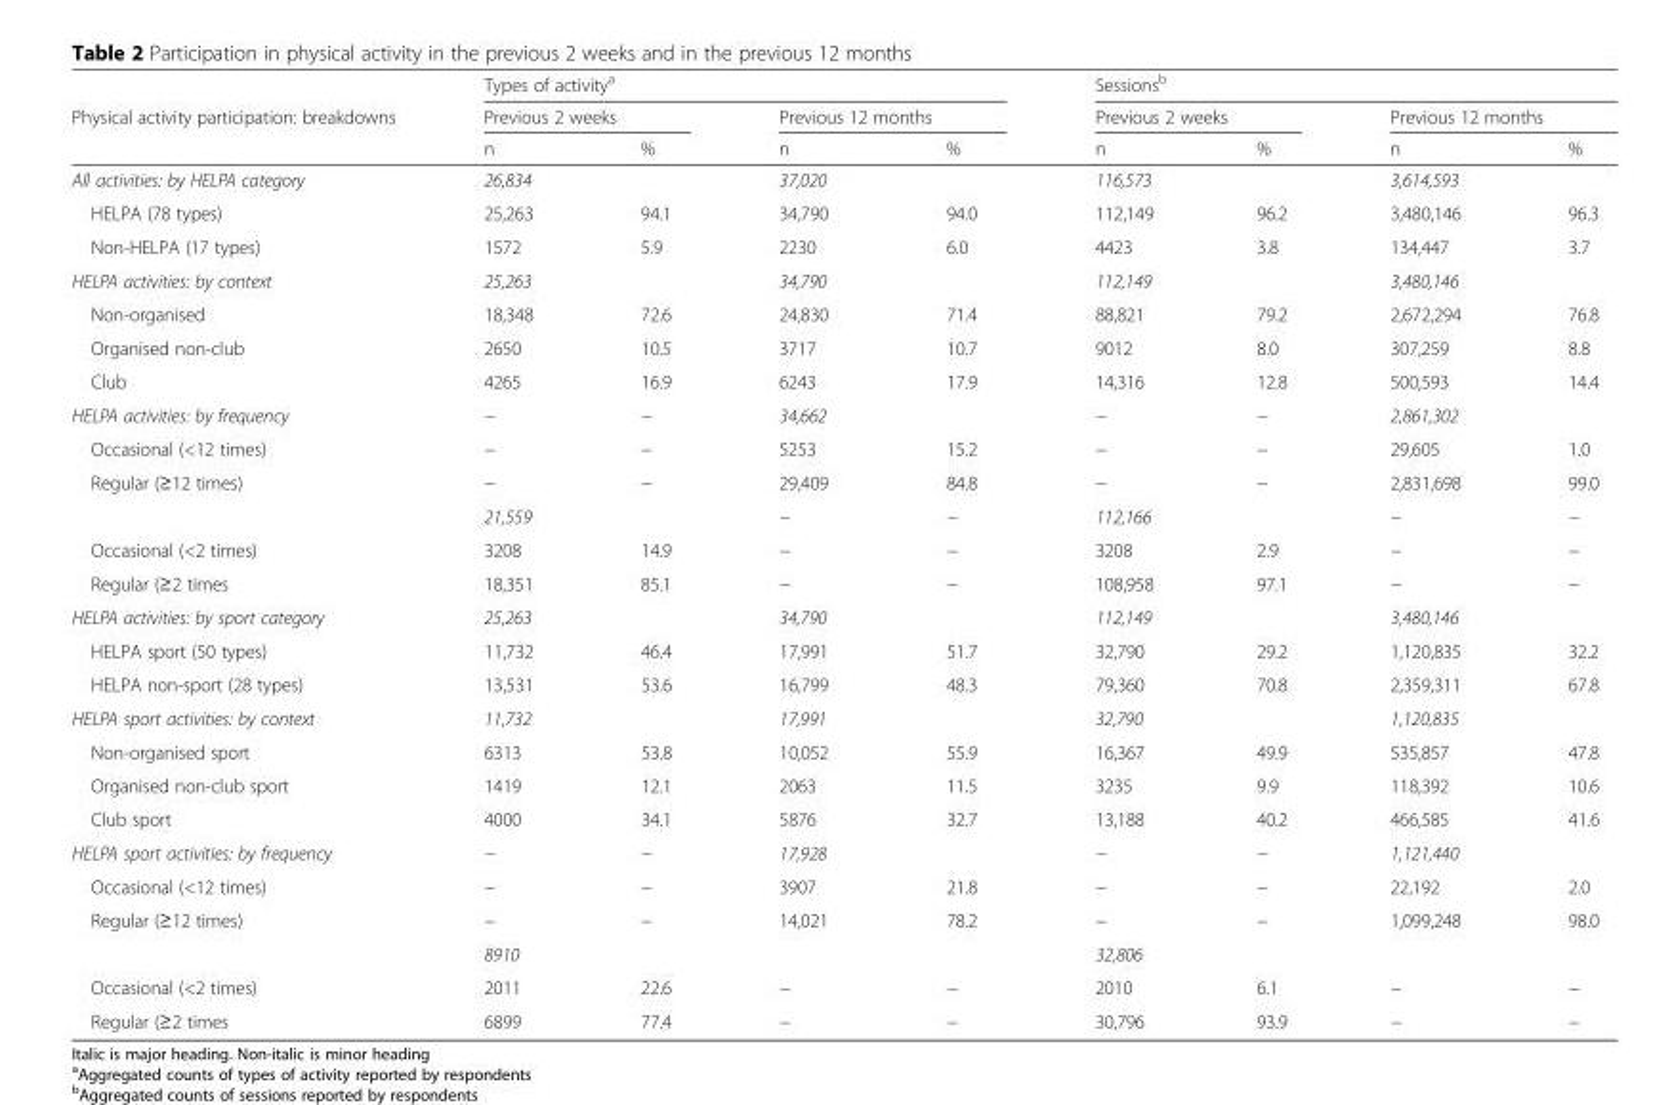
<table><thead><tr><td rowspan="3">Physical activity participation: breakdowns</td><td colspan="4">Types of activity<sup>a</sup></td><td colspan="4">Sessions<sup>b</sup></td></tr><tr><td colspan="2">Previous 2 weeks</td><td colspan="2">Previous 12 months</td><td colspan="2">Previous 2 weeks</td><td colspan="2">Previous 12 months</td></tr><tr><td>n</td><td>%</td><td>n</td><td>%</td><td>n</td><td>%</td><td>n</td><td>%</td></tr></thead><tbody><tr><td>All activities: by HELPA category</td><td>26,834</td><td></td><td>37,020</td><td></td><td>116,573</td><td></td><td>3,614,593</td><td></td></tr><tr><td>HELPA (78 types)</td><td>25,263</td><td>94.1</td><td>34,790</td><td>94.0</td><td>112,149</td><td>96.2</td><td>3,480,146</td><td>96.3</td></tr><tr><td>Non-HELPA (17 types)</td><td>1572</td><td>5.9</td><td>2230</td><td>6.0</td><td>4423</td><td>3.8</td><td>134,447</td><td>3.7</td></tr><tr><td>HELPA activities: by context</td><td>25,263</td><td></td><td>34,790</td><td></td><td>112,149</td><td></td><td>3,480,146</td><td></td></tr><tr><td>Non-organised</td><td>18,348</td><td>72.6</td><td>24,830</td><td>71.4</td><td>88,821</td><td>79.2</td><td>2,672,294</td><td>76.8</td></tr><tr><td>Organised non-club</td><td>2650</td><td>10.5</td><td>3717</td><td>10.7</td><td>9012</td><td>8.0</td><td>307,259</td><td>8.8</td></tr><tr><td>Club</td><td>4265</td><td>16.9</td><td>6243</td><td>17.9</td><td>14,316</td><td>12.8</td><td>500,593</td><td>14.4</td></tr><tr><td>HELPA activities: by frequency</td><td>−</td><td>−</td><td>34,662</td><td></td><td>−</td><td>−</td><td>2,861,302</td><td></td></tr><tr><td>Occasional (&lt;12 times)</td><td>−</td><td>−</td><td>5253</td><td>15.2</td><td>−</td><td>−</td><td>29,605</td><td>1.0</td></tr><tr><td rowspan="2">Regular (≥12 times)</td><td>−</td><td>−</td><td>29,409</td><td>84.8</td><td>−</td><td>−</td><td>2,831,698</td><td>99.0</td></tr><tr><td>21,559</td><td></td><td>−</td><td>−</td><td>112,166</td><td></td><td>−</td><td>−</td></tr><tr><td>Occasional (&lt;2 times)</td><td>3208</td><td>14.9</td><td>−</td><td>−</td><td>3208</td><td>2.9</td><td>−</td><td>−</td></tr><tr><td>Regular (≥2 times</td><td>18,351</td><td>85.1</td><td>−</td><td>−</td><td>108,958</td><td>97.1</td><td>−</td><td>−</td></tr><tr><td>HELPA activities: by sport category</td><td>25,263</td><td></td><td>34,790</td><td></td><td>112,149</td><td></td><td>3,480,146</td><td></td></tr><tr><td>HELPA sport (50 types)</td><td>11,732</td><td>46.4</td><td>17,991</td><td>51.7</td><td>32,790</td><td>29.2</td><td>1,120,835</td><td>32.2</td></tr><tr><td>HELPA non-sport (28 types)</td><td>13,531</td><td>53.6</td><td>16,799</td><td>48.3</td><td>79,360</td><td>70.8</td><td>2,359,311</td><td>67.8</td></tr><tr><td>HELPA sport activities: by context</td><td>11,732</td><td></td><td>17,991</td><td></td><td>32,790</td><td></td><td>1,120,835</td><td></td></tr><tr><td>Non-organised sport</td><td>6313</td><td>53.8</td><td>10,052</td><td>55.9</td><td>16,367</td><td>49.9</td><td>535,857</td><td>47.8</td></tr><tr><td>Organised non-club sport</td><td>1419</td><td>12.1</td><td>2063</td><td>11.5</td><td>3235</td><td>9.9</td><td>118,392</td><td>10.6</td></tr><tr><td>Club sport</td><td>4000</td><td>34.1</td><td>5876</td><td>32.7</td><td>13,188</td><td>40.2</td><td>466,585</td><td>41.6</td></tr><tr><td>HELPA sport activities: by frequency</td><td>−</td><td>−</td><td>17,928</td><td></td><td>−</td><td>−</td><td>1,121,440</td><td></td></tr><tr><td>Occasional (&lt;12 times)</td><td>−</td><td>−</td><td>3907</td><td>21.8</td><td>−</td><td>−</td><td>22,192</td><td>2.0</td></tr><tr><td rowspan="2">Regular (≥12 times)</td><td>−</td><td>−</td><td>14,021</td><td>78.2</td><td>−</td><td>−</td><td>1,099,248</td><td>98.0</td></tr><tr><td>8910</td><td></td><td></td><td></td><td>32,806</td><td></td><td></td><td></td></tr><tr><td>Occasional (&lt;2 times)</td><td>2011</td><td>22.6</td><td>−</td><td>−</td><td>2010</td><td>6.1</td><td>−</td><td>−</td></tr><tr><td>Regular (≥2 times</td><td>6899</td><td>77.4</td><td>−</td><td>−</td><td>30,796</td><td>93.9</td><td>−</td><td>−</td></tr></tbody></table>